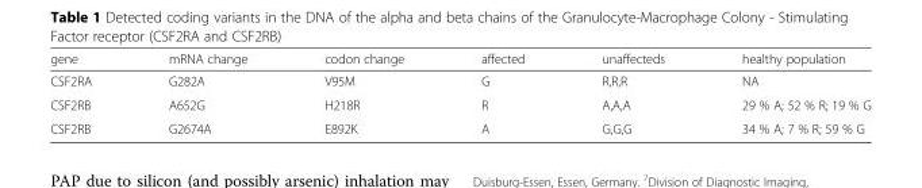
<table><thead><tr><td>gene</td><td>mRNA change</td><td>codon change</td><td>affected</td><td>unaffecteds</td><td>healthy population</td></tr></thead><tbody><tr><td>CSF2RA</td><td>G282A</td><td>V95M</td><td>G</td><td>R,R,R</td><td>NA</td></tr><tr><td>CSF2RB</td><td>A652G</td><td>H218R</td><td>R</td><td>A,A,A</td><td>29 % A; 52 % R; 19 % G</td></tr><tr><td>CSF2RB</td><td>G2674A</td><td>E892K</td><td>A</td><td>G,G,G</td><td>34 % A; 7 % R; 59 % G</td></tr></tbody></table>